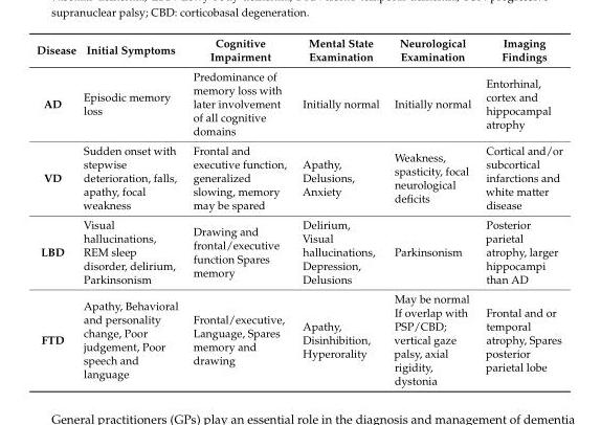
<table><thead><tr><td>Disease</td><td>Initial Symptoms</td><td>Cognitive Impairment</td><td>Mental State Examination</td><td>Neurological Examination</td><td>Imaging Findings</td></tr></thead><tbody><tr><td>AD</td><td>Episodic memory loss</td><td>Predominance of memory loss with later involvement of all cognitive domains</td><td>Initially normal</td><td>Initially normal</td><td>Entorhinal, cortex and hippocampal atrophy</td></tr><tr><td>VD</td><td>Sudden onset with stepwise deterioration, falls, apathy, focal weakness</td><td>Frontal and executive function, generalized slowing, memory may be spared</td><td>Apathy, Delusions, Anxiety</td><td>Weakness, spasticity, focal neurological deficits</td><td>Cortical and/or subcortical infarctions and white matter disease</td></tr><tr><td>LBD</td><td>Visual hallucinations, REM sleep disorder, delirium, Parkinsonism</td><td>Drawing and frontal/executive function Spares memory</td><td>Delirium, Visual hallucinations, Depression, Delusions</td><td>Parkinsonism</td><td>Posterior parietal atrophy, larger hippocampi than AD</td></tr><tr><td>FTD</td><td>Apathy, Behavioral and personality change, Poor judgement, Poor speech and language</td><td>Frontal/executive, Language, Spares memory and drawing</td><td>Apathy, Disinhibition, Hyperorality</td><td>May be normal If overlap with PSP/CBD; vertical gaze palsy, axial rigidity, dystonia</td><td>Frontal and or temporal atrophy, Spares posterior parietal lobe</td></tr></tbody></table>